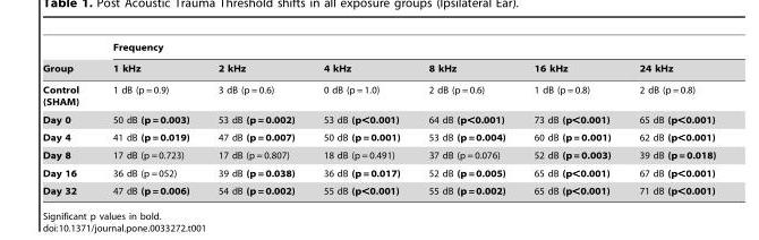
<table><thead><tr><td rowspan="2">Group</td><td colspan="6">Frequency</td></tr><tr><td>1 kHz</td><td>2 kHz</td><td>4 kHz</td><td>8 kHz</td><td>16 kHz</td><td>24 kHz</td></tr></thead><tbody><tr><td>Control (SHAM)</td><td>1 dB (p = 0.9)</td><td>3 dB (p = 0.6)</td><td>0 dB (p = 1.0)</td><td>2 dB (p = 0.6)</td><td>1 dB (p = 0.8)</td><td>2 dB (p = 0.8)</td></tr><tr><td>Day 0</td><td>50 dB (p = 0.003)</td><td>53 dB (p = 0.002)</td><td>53 dB (p&lt;0.001)</td><td>64 dB (p&lt;0.001)</td><td>73 dB (p&lt;0.001)</td><td>65 dB (p&lt;0.001)</td></tr><tr><td>Day 4</td><td>41 dB (p = 0.019)</td><td>47 dB (p = 0.007)</td><td>50 dB (p = 0.001)</td><td>53 dB (p = 0.004)</td><td>60 dB (p = 0.001)</td><td>62 dB (p&lt;0.001)</td></tr><tr><td>Day 8</td><td>17 dB (p = 0.723)</td><td>17 dB (p = 0.807)</td><td>18 dB (p = 0.491)</td><td>37 dB (p = 0.076)</td><td>52 dB (p = 0.003)</td><td>39 dB (p = 0.018)</td></tr><tr><td>Day 16</td><td>36 dB (p = 052)</td><td>39 dB (p = 0.038)</td><td>36 dB (p = 0.017)</td><td>52 dB (p = 0.005)</td><td>65 dB (p&lt;0.001)</td><td>67 dB (p&lt;0.001)</td></tr><tr><td>Day 32</td><td>47 dB (p = 0.006)</td><td>54 dB (p = 0.002)</td><td>55 dB (p&lt;0.001)</td><td>55 dB (p = 0.002)</td><td>65 dB (p&lt;0.001)</td><td>71 dB (p&lt;0.001)</td></tr></tbody></table>